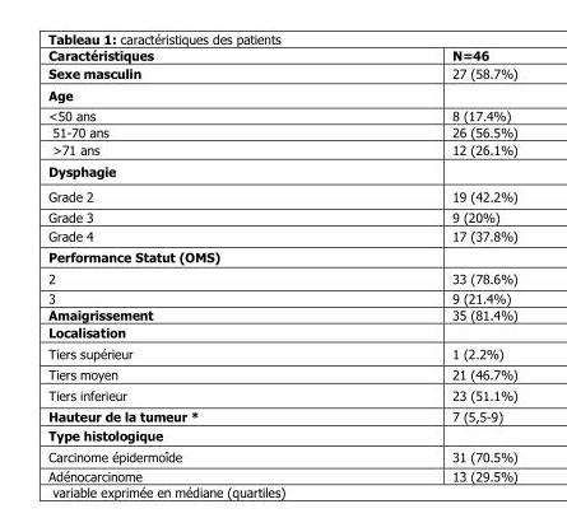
<table><thead><tr><td>Caractéristiques</td><td>N=46</td></tr></thead><tbody><tr><td>Sexe masculin</td><td>27 (58.7%)</td></tr><tr><td colspan="2">Age</td></tr><tr><td>&lt;50 ans</td><td>8 (17.4%)</td></tr><tr><td>51-70 ans</td><td>26 (56.5%)</td></tr><tr><td>&gt;71 ans</td><td>12 (26.1%)</td></tr><tr><td colspan="2">Dysphagie</td></tr><tr><td>Grade 2</td><td>19 (42.2%)</td></tr><tr><td>Grade 3</td><td>9 (20%)</td></tr><tr><td>Grade 4</td><td>17 (37.8%)</td></tr><tr><td colspan="2">Performance Statut (OMS)</td></tr><tr><td>2</td><td>33 (78.6%)</td></tr><tr><td>3</td><td>9 (21.4%)</td></tr><tr><td>Amaigrissement</td><td>35 (81.4%)</td></tr><tr><td colspan="2">Localisation</td></tr><tr><td>Tiers supérieur</td><td>1 (2.2%)</td></tr><tr><td>Tiers moyen</td><td>21 (46.7%)</td></tr><tr><td>Tiers inferieur</td><td>23 (51.1%)</td></tr><tr><td>Hauteur de la tumeur *</td><td>7 (5,5-9)</td></tr><tr><td colspan="2">Type histologique</td></tr><tr><td>Carcinome épidermoîde</td><td>31 (70.5%)</td></tr><tr><td>Adénocarcinome</td><td>13 (29.5%)</td></tr></tbody></table>